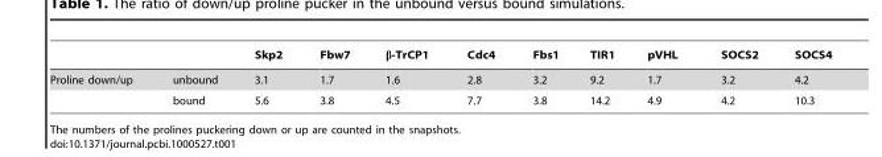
<table><thead><tr><td></td><td></td><td>Skp2</td><td>Fbw7</td><td>β-TrCP1</td><td>Cdc4</td><td>Fbs1</td><td>TIR1</td><td>pVHL</td><td>SOCS2</td><td>SOCS4</td></tr></thead><tbody><tr><td rowspan="2">Proline down/up</td><td>unbound</td><td>3.1</td><td>1.7</td><td>1.6</td><td>2.8</td><td>3.2</td><td>9.2</td><td>1.7</td><td>3.2</td><td>4.2</td></tr><tr><td>bound</td><td>5.6</td><td>3.8</td><td>4.5</td><td>7.7</td><td>3.8</td><td>14.2</td><td>4.9</td><td>4.2</td><td>10.3</td></tr></tbody></table>